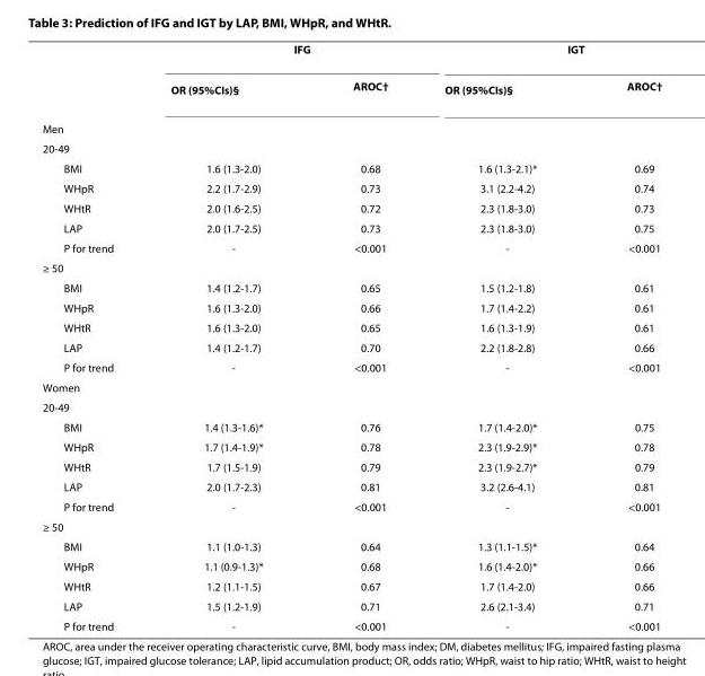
<table><thead><tr><td rowspan="2"></td><td colspan="2">IFG</td><td colspan="2">IGT</td></tr><tr><td>OR (95%CIs)<sup>§</sup></td><td>AROC†</td><td>OR (95%CIs)<sup>§</sup></td><td>AROC†</td></tr></thead><tbody><tr><td colspan="5">Men</td></tr><tr><td colspan="5">20-49</td></tr><tr><td>BMI</td><td>1.6 (1.3-2.0)</td><td>0.68</td><td>1.6 (1.3-2.1)*</td><td>0.69</td></tr><tr><td>WHpR</td><td>2.2 (1.7-2.9)</td><td>0.73</td><td>3.1 (2.2-4.2)</td><td>0.74</td></tr><tr><td>WHtR</td><td>2.0 (1.6-2.5)</td><td>0.72</td><td>2.3 (1.8-3.0)</td><td>0.73</td></tr><tr><td>LAP</td><td>2.0 (1.7-2.5)</td><td>0.73</td><td>2.3 (1.8-3.0)</td><td>0.75</td></tr><tr><td>P for trend</td><td>-</td><td>&lt;0.001</td><td>-</td><td>&lt;0.001</td></tr><tr><td colspan="5">≥ 50</td></tr><tr><td>BMI</td><td>1.4 (1.2-1.7)</td><td>0.65</td><td>1.5 (1.2-1.8)</td><td>0.61</td></tr><tr><td>WHpR</td><td>1.6 (1.3-2.0)</td><td>0.66</td><td>1.7 (1.4-2.2)</td><td>0.61</td></tr><tr><td>WHtR</td><td>1.6 (1.3-2.0)</td><td>0.65</td><td>1.6 (1.3-1.9)</td><td>0.61</td></tr><tr><td>LAP</td><td>1.4 (1.2-1.7)</td><td>0.70</td><td>2.2 (1.8-2.8)</td><td>0.66</td></tr><tr><td>P for trend</td><td>-</td><td>&lt;0.001</td><td>-</td><td>&lt;0.001</td></tr><tr><td colspan="5">Women</td></tr><tr><td colspan="5">20-49</td></tr><tr><td>BMI</td><td>1.4 (1.3-1.6)*</td><td>0.76</td><td>1.7 (1.4-2.0)*</td><td>0.75</td></tr><tr><td>WHpR</td><td>1.7 (1.4-1.9)*</td><td>0.78</td><td>2.3 (1.9-2.9)*</td><td>0.78</td></tr><tr><td>WHtR</td><td>1.7 (1.5-1.9)</td><td>0.79</td><td>2.3 (1.9-2.7)*</td><td>0.79</td></tr><tr><td>LAP</td><td>2.0 (1.7-2.3)</td><td>0.81</td><td>3.2 (2.6-4.1)</td><td>0.81</td></tr><tr><td>P for trend</td><td>-</td><td>&lt;0.001</td><td>-</td><td>&lt;0.001</td></tr><tr><td colspan="5">≥ 50</td></tr><tr><td>BMI</td><td>1.1 (1.0-1.3)</td><td>0.64</td><td>1.3 (1.1-1.5)*</td><td>0.64</td></tr><tr><td>WHpR</td><td>1.1 (0.9-1.3)*</td><td>0.68</td><td>1.6 (1.4-2.0)*</td><td>0.66</td></tr><tr><td>WHtR</td><td>1.2 (1.1-1.5)</td><td>0.67</td><td>1.7 (1.4-2.0)</td><td>0.66</td></tr><tr><td>LAP</td><td>1.5 (1.2-1.9)</td><td>0.71</td><td>2.6 (2.1-3.4)</td><td>0.71</td></tr><tr><td>P for trend</td><td>-</td><td>&lt;0.001</td><td>-</td><td>&lt;0.001</td></tr></tbody></table>